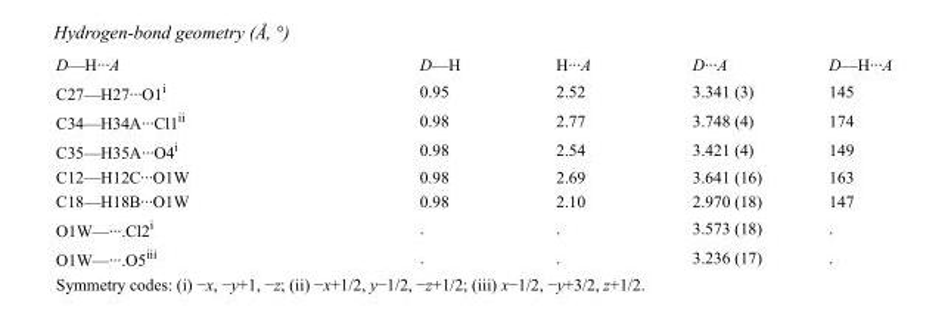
<table><tbody><tr><td>D—H···A</td><td>D—H</td><td>H···A</td><td>D···A</td><td>D—H···A</td></tr><tr><td>C27—H27···O1<sup>i</sup></td><td>0.95</td><td>2.52</td><td>3.341 (3)</td><td>145</td></tr><tr><td>C34—H34A···Cl1<sup>ii</sup></td><td>0.98</td><td>2.77</td><td>3.748 (4)</td><td>174</td></tr><tr><td>C35—H35A···O4<sup>i</sup></td><td>0.98</td><td>2.54</td><td>3.421 (4)</td><td>149</td></tr><tr><td>C12—H12C···O1W</td><td>0.98</td><td>2.69</td><td>3.641 (16)</td><td>163</td></tr><tr><td>C18—H18B···O1W</td><td>0.98</td><td>2.10</td><td>2.970 (18)</td><td>147</td></tr><tr><td>O1W—···.Cl2<sup>i</sup></td><td>.</td><td>.</td><td>3.573 (18)</td><td>.</td></tr><tr><td>O1W—···.O5<sup>iii</sup></td><td>.</td><td>.</td><td>3.236 (17)</td><td>.</td></tr></tbody></table>